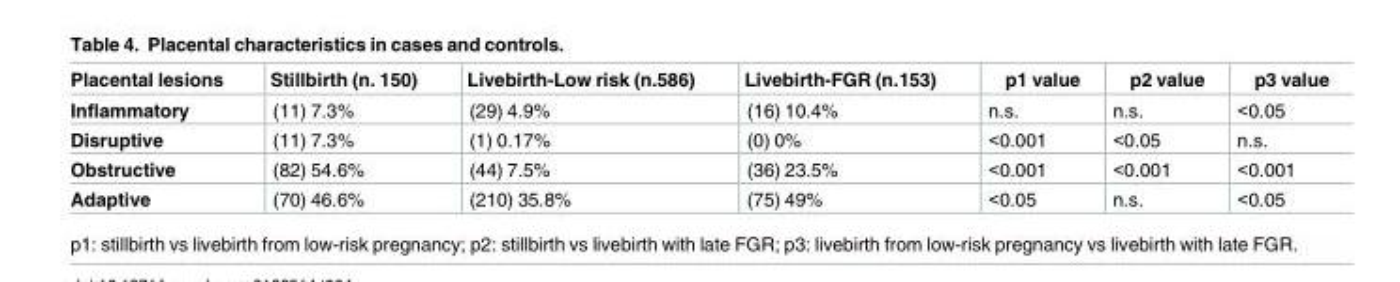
<table><thead><tr><td>Placental lesions</td><td>Stillbirth (n. 150)</td><td>Livebirth-Low risk (n.586)</td><td>Livebirth-FGR (n.153)</td><td>p1 value</td><td>p2 value</td><td>p3 value</td></tr></thead><tbody><tr><td>Inflammatory</td><td>(11) 7.3%</td><td>(29) 4.9%</td><td>(16) 10.4%</td><td>n.s.</td><td>n.s.</td><td>&lt;0.05</td></tr><tr><td>Disruptive</td><td>(11) 7.3%</td><td>(1) 0.17%</td><td>(0) 0%</td><td>&lt;0.001</td><td>&lt;0.05</td><td>n.s.</td></tr><tr><td>Obstructive</td><td>(82) 54.6%</td><td>(44) 7.5%</td><td>(36) 23.5%</td><td>&lt;0.001</td><td>&lt;0.001</td><td>&lt;0.001</td></tr><tr><td>Adaptive</td><td>(70) 46.6%</td><td>(210) 35.8%</td><td>(75) 49%</td><td>&lt;0.05</td><td>n.s.</td><td>&lt;0.05</td></tr></tbody></table>